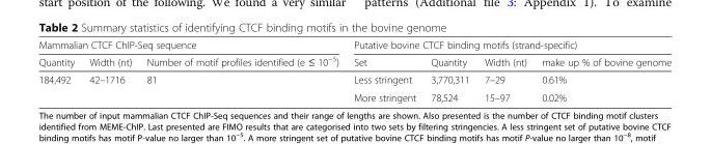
<table><thead><tr><td colspan="3">Mammalian CTCF ChIP-Seq sequence</td><td colspan="4">Putative bovine CTCF binding motifs (strand-specific)</td></tr><tr><td>Quantity</td><td>Width (nt)</td><td>Number of motif profiles identified (e ≤ 10<sup>−5</sup>)</td><td>Set</td><td>Quantity</td><td>Width (nt)</td><td>make up % of bovine genome</td></tr></thead><tbody><tr><td rowspan="2">184,492</td><td rowspan="2">42–1716</td><td rowspan="2">81</td><td>Less stringent</td><td>3,770,311</td><td>7–29</td><td>0.61%</td></tr><tr><td>More stringent</td><td>78,524</td><td>15–97</td><td>0.02%</td></tr></tbody></table>